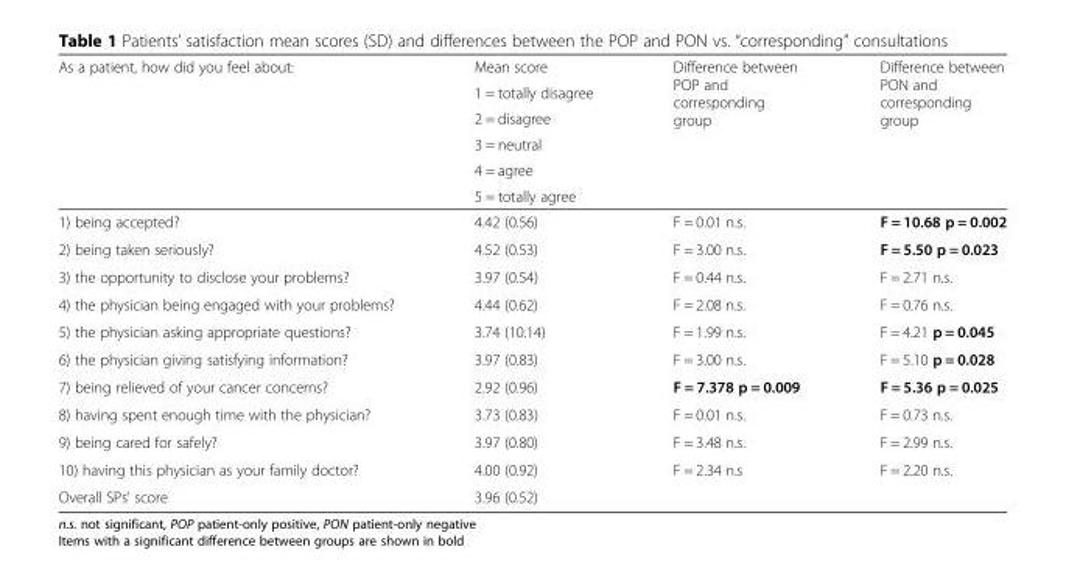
<table><thead><tr><td rowspan="6">As a patient, how did you feel about:</td><td rowspan="6">Mean score 1 = totally disagree 2 = disagree 3 = neutral 4 = agree 5 = totally agree</td><td rowspan="6">Difference between POP and corresponding group</td><td rowspan="6">Difference between PON and corresponding group</td></tr><tr></tr><tr></tr><tr></tr><tr></tr><tr></tr></thead><tbody><tr><td>1) being accepted?</td><td>4.42 (0.56)</td><td>F = 0.01 n.s.</td><td>F = 10.68 p = 0.002</td></tr><tr><td>2) being taken seriously?</td><td>4.52 (0.53)</td><td>F = 3.00 n.s.</td><td>F = 5.50 p = 0.023</td></tr><tr><td>3) the opportunity to disclose your problems?</td><td>3.97 (0.54)</td><td>F = 0.44 n.s.</td><td>F = 2.71 n.s.</td></tr><tr><td>4) the physician being engaged with your problems?</td><td>4.44 (0.62)</td><td>F = 2.08 n.s.</td><td>F = 0.76 n.s.</td></tr><tr><td>5) the physician asking appropriate questions?</td><td>3.74 (10.14)</td><td>F = 1.99 n.s.</td><td>F = 4.21 p = 0.045</td></tr><tr><td>6) the physician giving satisfying information?</td><td>3.97 (0.83)</td><td>F = 3.00 n.s.</td><td>F = 5.10 p = 0.028</td></tr><tr><td>7) being relieved of your cancer concerns?</td><td>2.92 (0.96)</td><td>F = 7.378 p = 0.009</td><td>F = 5.36 p = 0.025</td></tr><tr><td>8) having spent enough time with the physician?</td><td>3.73 (0.83)</td><td>F = 0.01 n.s.</td><td>F = 0.73 n.s.</td></tr><tr><td>9) being cared for safely?</td><td>3.97 (0.80)</td><td>F = 3.48 n.s.</td><td>F = 2.99 n.s.</td></tr><tr><td>10) having this physician as your family doctor?</td><td>4.00 (0.92)</td><td>F = 2.34 n.s</td><td>F = 2.20 n.s.</td></tr><tr><td>Overall SPs’ score</td><td>3.96 (0.52)</td><td></td><td></td></tr></tbody></table>